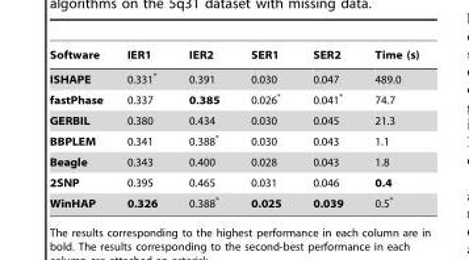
<table><thead><tr><td>Software</td><td>IER1</td><td>IER2</td><td>SER1</td><td>SER2</td><td>Time (s)</td></tr></thead><tbody><tr><td>ISHAPE</td><td>0.331*</td><td>0.391</td><td>0.030</td><td>0.047</td><td>489.0</td></tr><tr><td>fastPhase</td><td>0.337</td><td>0.385</td><td>0.026*</td><td>0.041*</td><td>74.7</td></tr><tr><td>GERBIL</td><td>0.380</td><td>0.434</td><td>0.030</td><td>0.045</td><td>21.3</td></tr><tr><td>BBPLEM</td><td>0.341</td><td>0.388*</td><td>0.030</td><td>0.043</td><td>1.1</td></tr><tr><td>Beagle</td><td>0.343</td><td>0.400</td><td>0.028</td><td>0.043</td><td>1.8</td></tr><tr><td>2SNP</td><td>0.395</td><td>0.465</td><td>0.031</td><td>0.046</td><td>0.4</td></tr><tr><td>WinHAP</td><td>0.326</td><td>0.388*</td><td>0.025</td><td>0.039</td><td>0.5*</td></tr></tbody></table>